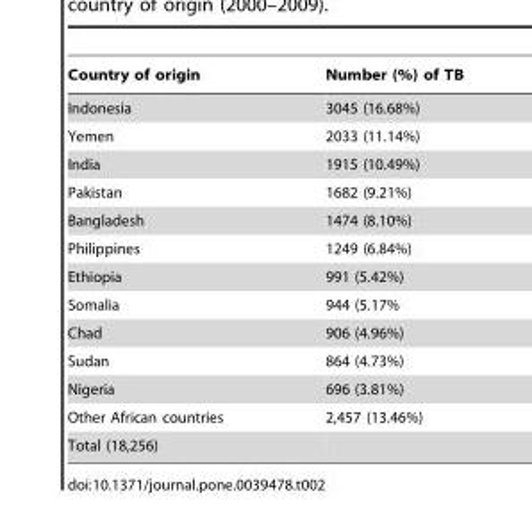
<table><thead><tr><td>Country of origin</td><td>Number (%) of TB</td></tr></thead><tbody><tr><td>Indonesia</td><td>3045 (16.68%)</td></tr><tr><td>Yemen</td><td>2033 (11.14%)</td></tr><tr><td>India</td><td>1915 (10.49%)</td></tr><tr><td>Pakistan</td><td>1682 (9.21%)</td></tr><tr><td>Bangladesh</td><td>1474 (8.10%)</td></tr><tr><td>Philippines</td><td>1249 (6.84%)</td></tr><tr><td>Ethiopia</td><td>991 (5.42%)</td></tr><tr><td>Somalia</td><td>944 (5.17%</td></tr><tr><td>Chad</td><td>906 (4.96%)</td></tr><tr><td>Sudan</td><td>864 (4.73%)</td></tr><tr><td>Nigeria</td><td>696 (3.81%)</td></tr><tr><td>Other African countries</td><td>2,457 (13.46%)</td></tr><tr><td>Total (18,256)</td><td></td></tr></tbody></table>